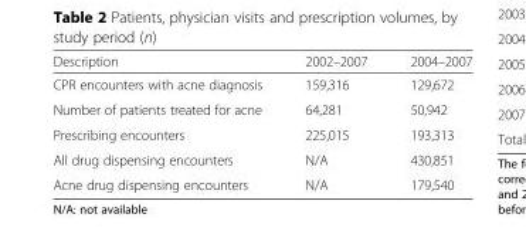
<table><thead><tr><td>Description</td><td>2002–2007</td><td>2004–2007</td></tr></thead><tbody><tr><td>CPR encounters with acne diagnosis</td><td>159,316</td><td>129,672</td></tr><tr><td>Number of patients treated for acne</td><td>64,281</td><td>50,942</td></tr><tr><td>Prescribing encounters</td><td>225,015</td><td>193,313</td></tr><tr><td>All drug dispensing encounters</td><td>N/A</td><td>430,851</td></tr><tr><td>Acne drug dispensing encounters</td><td>N/A</td><td>179,540</td></tr></tbody></table>